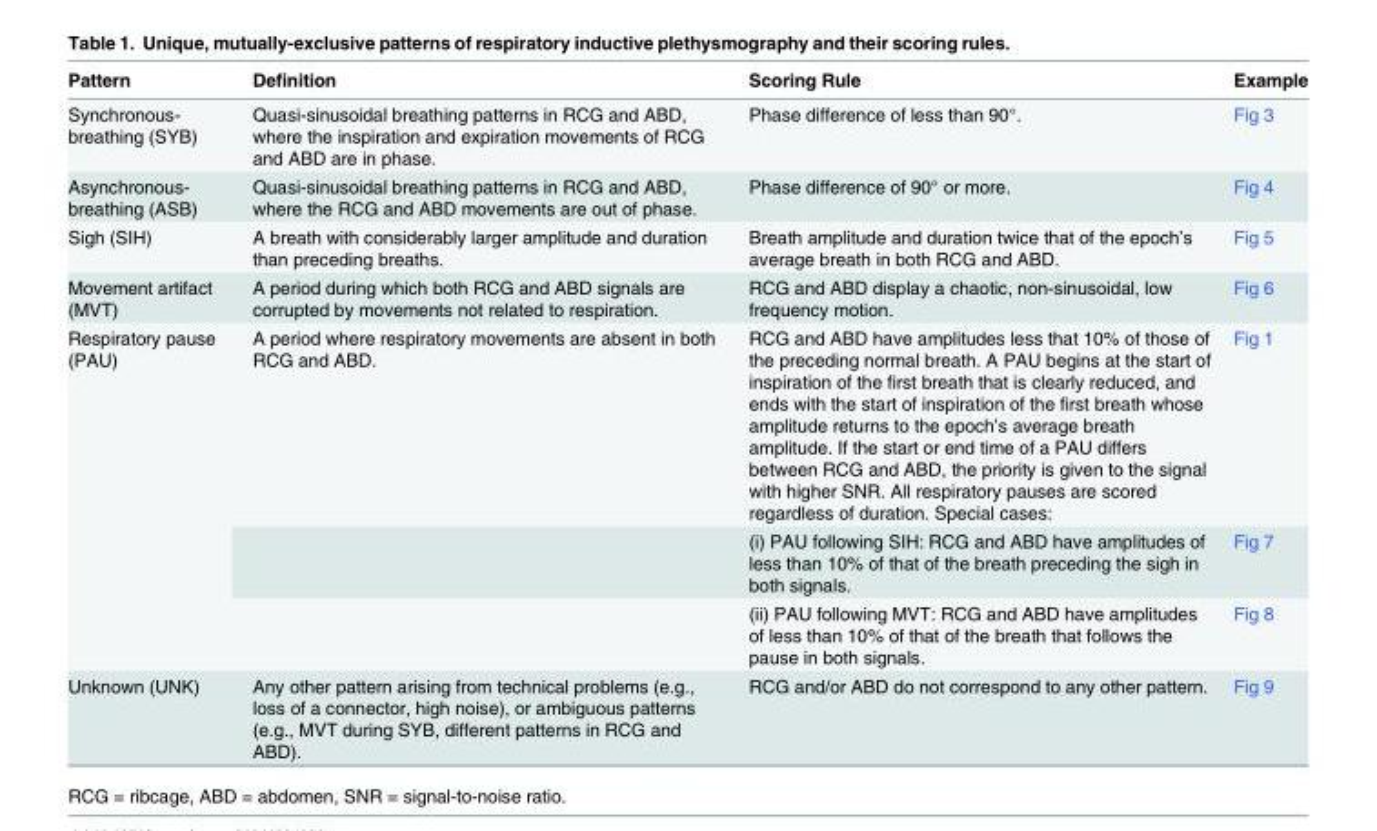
<table><thead><tr><td>Pattern</td><td>Definition</td><td>Scoring Rule</td><td>Example</td></tr></thead><tbody><tr><td>Synchronous- breathing (SYB)</td><td>Quasi-sinusoidal breathing patterns in RCG and ABD, where the inspiration and expiration movements of RCG and ABD are in phase.</td><td>Phase difference of less than 90°.</td><td>Fig 3</td></tr><tr><td>Asynchronous- breathing (ASB)</td><td>Quasi-sinusoidal breathing patterns in RCG and ABD, where the RCG and ABD movements are out of phase.</td><td>Phase difference of 90° or more.</td><td>Fig 4</td></tr><tr><td>Sigh (SIH)</td><td>A breath with considerably larger amplitude and duration than preceding breaths.</td><td>Breath amplitude and duration twice that of the epoch’s average breath in both RCG and ABD.</td><td>Fig 5</td></tr><tr><td>Movement artifact (MVT)</td><td>A period during which both RCG and ABD signals are corrupted by movements not related to respiration.</td><td>RCG and ABD display a chaotic, non-sinusoidal, low frequency motion.</td><td>Fig 6</td></tr><tr><td rowspan="3">Respiratory pause (PAU)</td><td>A period where respiratory movements are absent in both RCG and ABD.</td><td>RCG and ABD have amplitudes less that 10% of those of the preceding normal breath. A PAU begins at the start of inspiration of the first breath that is clearly reduced, and ends with the start of inspiration of the first breath whose amplitude returns to the epoch’s average breath amplitude. If the start or end time of a PAU differs between RCG and ABD, the priority is given to the signal with higher SNR. All respiratory pauses are scored regardless of duration. Special cases:</td><td>Fig 1</td></tr><tr><td></td><td>(i) PAU following SIH: RCG and ABD have amplitudes of less than 10% of that of the breath preceding the sigh in both signals.</td><td>Fig 7</td></tr><tr><td></td><td>(ii) PAU following MVT: RCG and ABD have amplitudes of less than 10% of that of the breath that follows the pause in both signals.</td><td>Fig 8</td></tr><tr><td>Unknown (UNK)</td><td>Any other pattern arising from technical problems (e.g., loss of a connector, high noise), or ambiguous patterns (e.g., MVT during SYB, different patterns in RCG and ABD).</td><td>RCG and/or ABD do not correspond to any other pattern.</td><td>Fig 9</td></tr></tbody></table>